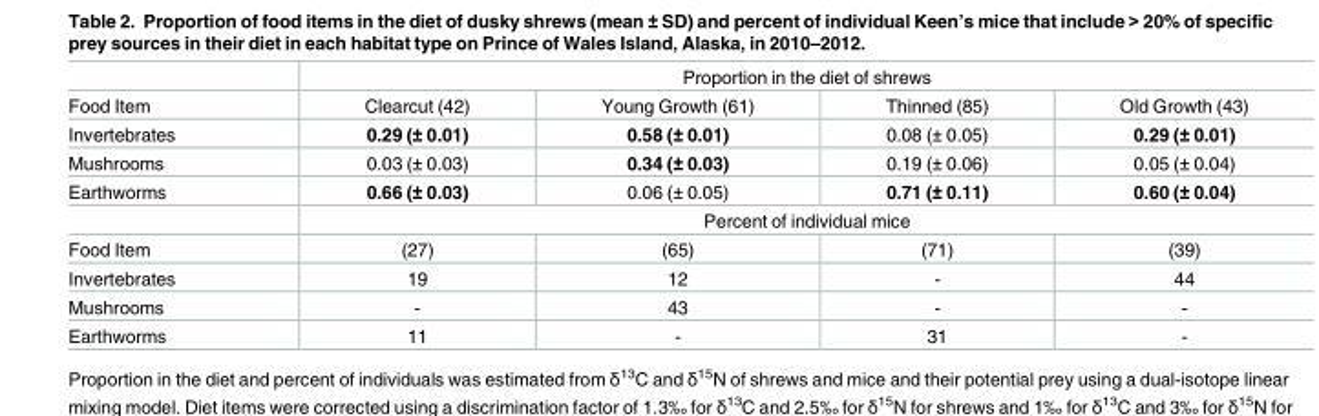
<table><thead><tr><td rowspan="2">Food Item</td><td colspan="4">Proportion in the diet of shrews</td></tr><tr><td>Clearcut (42)</td><td>Young Growth (61)</td><td>Thinned (85)</td><td>Old Growth (43)</td></tr></thead><tbody><tr><td>Invertebrates</td><td>0.29 (± 0.01)</td><td>0.58 (± 0.01)</td><td>0.08 (± 0.05)</td><td>0.29 (± 0.01)</td></tr><tr><td>Mushrooms</td><td>0.03 (± 0.03)</td><td>0.34 (± 0.03)</td><td>0.19 (± 0.06)</td><td>0.05 (± 0.04)</td></tr><tr><td rowspan="2">Earthworms</td><td>0.66 (± 0.03)</td><td>0.06 (± 0.05)</td><td>0.71 (± 0.11)</td><td>0.60 (± 0.04)</td></tr><tr><td colspan="4">Percent of individual mice</td></tr><tr><td>Food Item</td><td>(27)</td><td>(65)</td><td>(71)</td><td>(39)</td></tr><tr><td>Invertebrates</td><td>19</td><td>12</td><td>-</td><td>44</td></tr><tr><td>Mushrooms</td><td>-</td><td>43</td><td>-</td><td>-</td></tr><tr><td>Earthworms</td><td>11</td><td>-</td><td>31</td><td>-</td></tr></tbody></table>